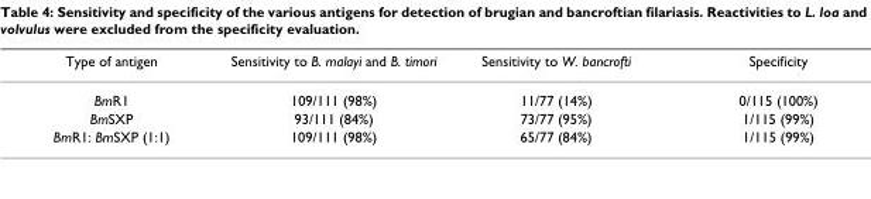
<table><thead><tr><td>Type of antigen</td><td>Sensitivity to B. malayi and B. timori</td><td>Sensitivity to W. bancrofti</td><td>Specificity</td></tr></thead><tbody><tr><td>BmR1</td><td>109/111 (98%)</td><td>11/77 (14%)</td><td>0/115 (100%)</td></tr><tr><td>BmSXP</td><td>93/111 (84%)</td><td>73/77 (95%)</td><td>1/115 (99%)</td></tr><tr><td>BmR1: BmSXP (1:1)</td><td>109/111 (98%)</td><td>65/77 (84%)</td><td>1/115 (99%)</td></tr></tbody></table>